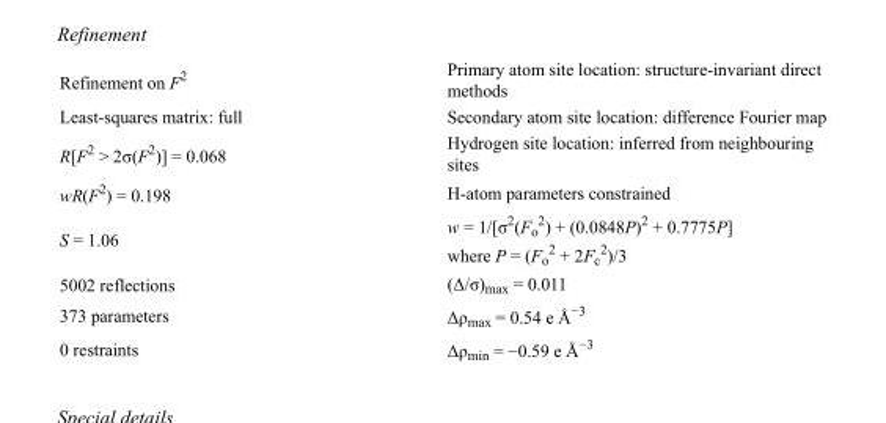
<table><tbody><tr><td>Refinement on F<sup>2</sup></td><td>Primary atom site location: structure-invariant direct methods</td></tr><tr><td>Least-squares matrix: full</td><td>Secondary atom site location: difference Fourier map</td></tr><tr><td>R[F<sup>2</sup> &gt; 2σ(F<sup>2</sup>)] = 0.068</td><td>Hydrogen site location: inferred from neighbouring sites</td></tr><tr><td>wR(F<sup>2</sup>) = 0.198</td><td>H-atom parameters constrained</td></tr><tr><td>S = 1.06</td><td>w = 1/[σ<sup>2</sup>(F<sub>o</sub> <sup>2</sup>) + (0.0848P)<sup>2</sup> + 0.7775P] where P = (F<sub>o</sub> <sup>2</sup> + 2F<sub>c</sub> <sup>2</sup>)/3</td></tr><tr><td>5002 reflections</td><td>(Δ/σ)<sub>max</sub> = 0.011</td></tr><tr><td>373 parameters</td><td>Δρ<sub>max</sub> = 0.54 e Å<sup>−3</sup></td></tr><tr><td>0 restraints</td><td>Δρ<sub>min</sub> = −0.59 e Å<sup>−3</sup></td></tr></tbody></table>